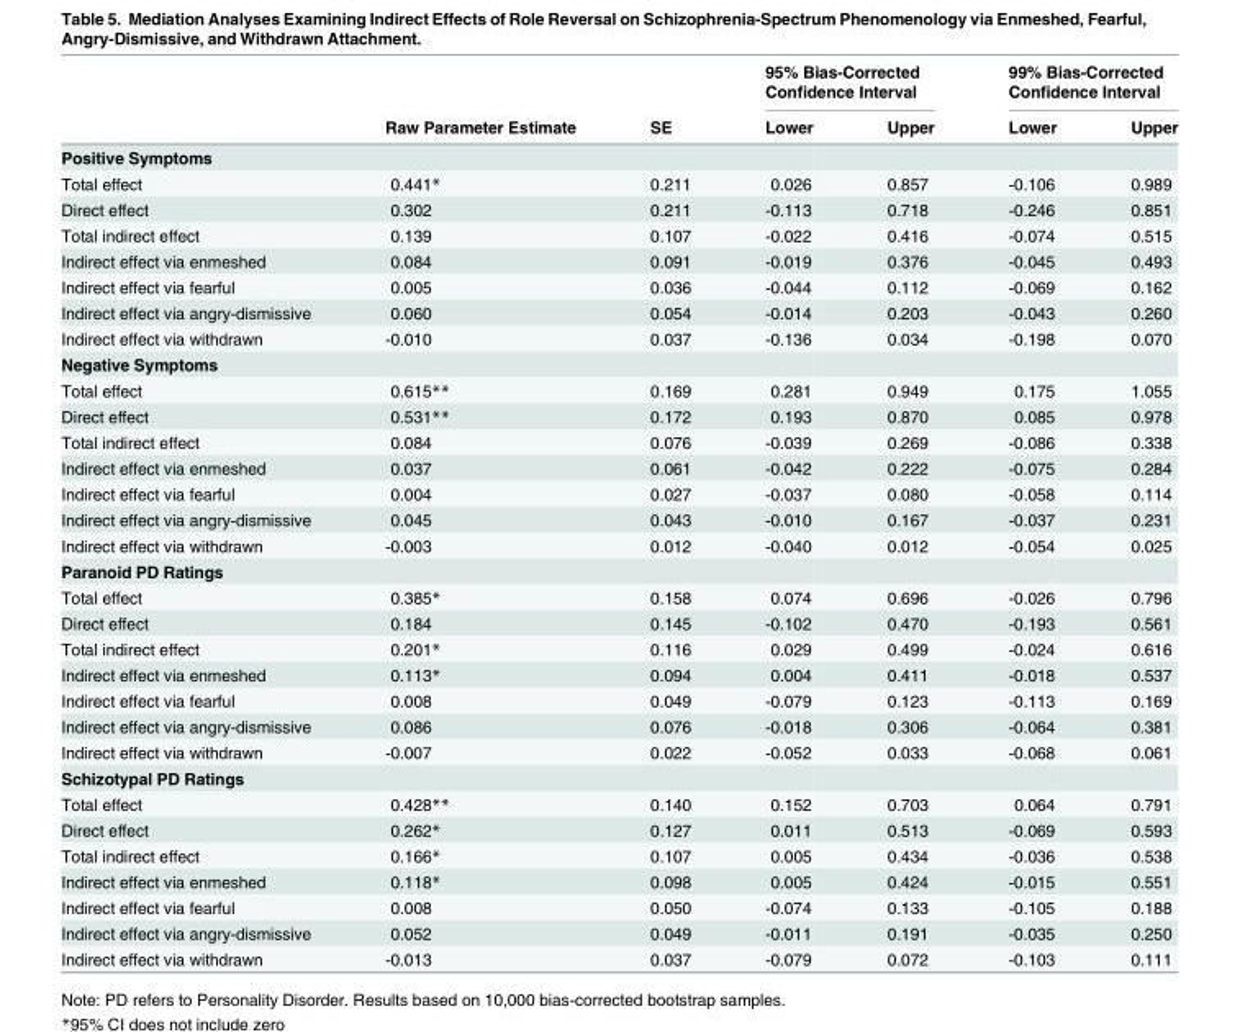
<table><thead><tr><td rowspan="2"></td><td rowspan="2">Raw Parameter Estimate</td><td rowspan="2">SE</td><td colspan="2">95% Bias-Corrected Confidence Interval</td><td colspan="2">99% Bias-Corrected Confidence Interval</td></tr><tr><td>Lower</td><td>Upper</td><td>Lower</td><td>Upper</td></tr></thead><tbody><tr><td colspan="7">Positive Symptoms</td></tr><tr><td>Total effect</td><td>0.441*</td><td>0.211</td><td>0.026</td><td>0.857</td><td>-0.106</td><td>0.989</td></tr><tr><td>Direct effect</td><td>0.302</td><td>0.211</td><td>-0.113</td><td>0.718</td><td>-0.246</td><td>0.851</td></tr><tr><td>Total indirect effect</td><td>0.139</td><td>0.107</td><td>-0.022</td><td>0.416</td><td>-0.074</td><td>0.515</td></tr><tr><td>Indirect effect via enmeshed</td><td>0.084</td><td>0.091</td><td>-0.019</td><td>0.376</td><td>-0.045</td><td>0.493</td></tr><tr><td>Indirect effect via fearful</td><td>0.005</td><td>0.036</td><td>-0.044</td><td>0.112</td><td>-0.069</td><td>0.162</td></tr><tr><td>Indirect effect via angry-dismissive</td><td>0.060</td><td>0.054</td><td>-0.014</td><td>0.203</td><td>-0.043</td><td>0.260</td></tr><tr><td>Indirect effect via withdrawn</td><td>-0.010</td><td>0.037</td><td>-0.136</td><td>0.034</td><td>-0.198</td><td>0.070</td></tr><tr><td colspan="7">Negative Symptoms</td></tr><tr><td>Total effect</td><td>0.615**</td><td>0.169</td><td>0.281</td><td>0.949</td><td>0.175</td><td>1.055</td></tr><tr><td>Direct effect</td><td>0.531**</td><td>0.172</td><td>0.193</td><td>0.870</td><td>0.085</td><td>0.978</td></tr><tr><td>Total indirect effect</td><td>0.084</td><td>0.076</td><td>-0.039</td><td>0.269</td><td>-0.086</td><td>0.338</td></tr><tr><td>Indirect effect via enmeshed</td><td>0.037</td><td>0.061</td><td>-0.042</td><td>0.222</td><td>-0.075</td><td>0.284</td></tr><tr><td>Indirect effect via fearful</td><td>0.004</td><td>0.027</td><td>-0.037</td><td>0.080</td><td>-0.058</td><td>0.114</td></tr><tr><td>Indirect effect via angry-dismissive</td><td>0.045</td><td>0.043</td><td>-0.010</td><td>0.167</td><td>-0.037</td><td>0.231</td></tr><tr><td>Indirect effect via withdrawn</td><td>-0.003</td><td>0.012</td><td>-0.040</td><td>0.012</td><td>-0.054</td><td>0.025</td></tr><tr><td colspan="7">Paranoid PD Ratings</td></tr><tr><td>Total effect</td><td>0.385*</td><td>0.158</td><td>0.074</td><td>0.696</td><td>-0.026</td><td>0.796</td></tr><tr><td>Direct effect</td><td>0.184</td><td>0.145</td><td>-0.102</td><td>0.470</td><td>-0.193</td><td>0.561</td></tr><tr><td>Total indirect effect</td><td>0.201*</td><td>0.116</td><td>0.029</td><td>0.499</td><td>-0.024</td><td>0.616</td></tr><tr><td>Indirect effect via enmeshed</td><td>0.113*</td><td>0.094</td><td>0.004</td><td>0.411</td><td>-0.018</td><td>0.537</td></tr><tr><td>Indirect effect via fearful</td><td>0.008</td><td>0.049</td><td>-0.079</td><td>0.123</td><td>-0.113</td><td>0.169</td></tr><tr><td>Indirect effect via angry-dismissive</td><td>0.086</td><td>0.076</td><td>-0.018</td><td>0.306</td><td>-0.064</td><td>0.381</td></tr><tr><td>Indirect effect via withdrawn</td><td>-0.007</td><td>0.022</td><td>-0.052</td><td>0.033</td><td>-0.068</td><td>0.061</td></tr><tr><td colspan="7">Schizotypal PD Ratings</td></tr><tr><td>Total effect</td><td>0.428**</td><td>0.140</td><td>0.152</td><td>0.703</td><td>0.064</td><td>0.791</td></tr><tr><td>Direct effect</td><td>0.262*</td><td>0.127</td><td>0.011</td><td>0.513</td><td>-0.069</td><td>0.593</td></tr><tr><td>Total indirect effect</td><td>0.166*</td><td>0.107</td><td>0.005</td><td>0.434</td><td>-0.036</td><td>0.538</td></tr><tr><td>Indirect effect via enmeshed</td><td>0.118*</td><td>0.098</td><td>0.005</td><td>0.424</td><td>-0.015</td><td>0.551</td></tr><tr><td>Indirect effect via fearful</td><td>0.008</td><td>0.050</td><td>-0.074</td><td>0.133</td><td>-0.105</td><td>0.188</td></tr><tr><td>Indirect effect via angry-dismissive</td><td>0.052</td><td>0.049</td><td>-0.011</td><td>0.191</td><td>-0.035</td><td>0.250</td></tr><tr><td>Indirect effect via withdrawn</td><td>-0.013</td><td>0.037</td><td>-0.079</td><td>0.072</td><td>-0.103</td><td>0.111</td></tr></tbody></table>